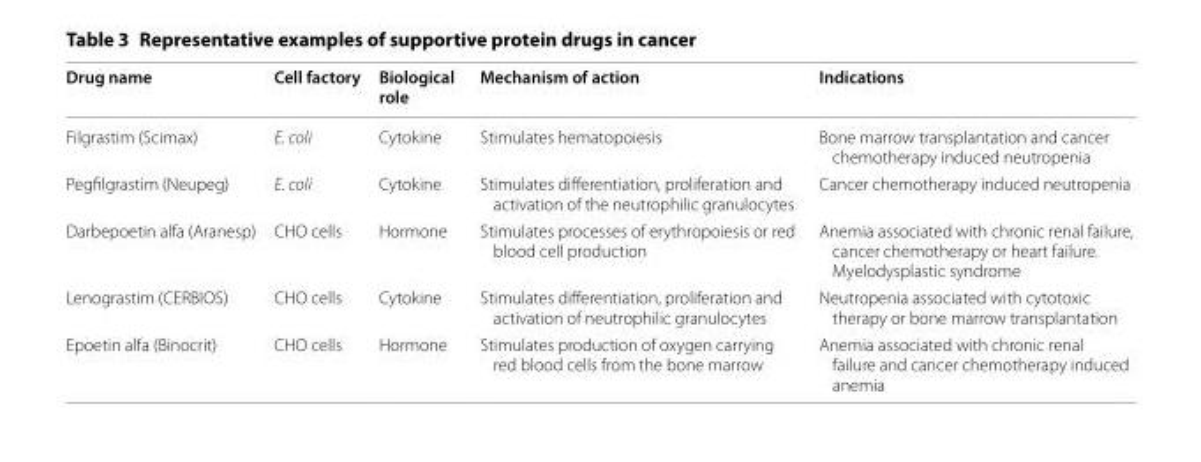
<table><thead><tr><td>Drug name</td><td>Cell factory</td><td>Biological role</td><td>Mechanism of action</td><td>Indications</td></tr></thead><tbody><tr><td>Filgrastim (Scimax)</td><td>E. coli</td><td>Cytokine</td><td>Stimulates hematopoiesis</td><td>Bone marrow transplantation and cancer chemotherapy induced neutropenia</td></tr><tr><td>Pegfilgrastim (Neupeg)</td><td>E. coli</td><td>Cytokine</td><td>Stimulates differentiation, proliferation and activation of the neutrophilic granulocytes</td><td>Cancer chemotherapy induced neutropenia</td></tr><tr><td>Darbepoetin alfa (Aranesp)</td><td>CHO cells</td><td>Hormone</td><td>Stimulates processes of erythropoiesis or red blood cell production</td><td>Anemia associated with chronic renal failure, cancer chemotherapy or heart failure. Myelodysplastic syndrome</td></tr><tr><td>Lenograstim (CERBIOS)</td><td>CHO cells</td><td>Cytokine</td><td>Stimulates differentiation, proliferation and activation of neutrophilic granulocytes</td><td>Neutropenia associated with cytotoxic therapy or bone marrow transplantation</td></tr><tr><td>Epoetin alfa (Binocrit)</td><td>CHO cells</td><td>Hormone</td><td>Stimulates production of oxygen carrying red blood cells from the bone marrow</td><td>Anemia associated with chronic renal failure and cancer chemotherapy induced anemia</td></tr></tbody></table>